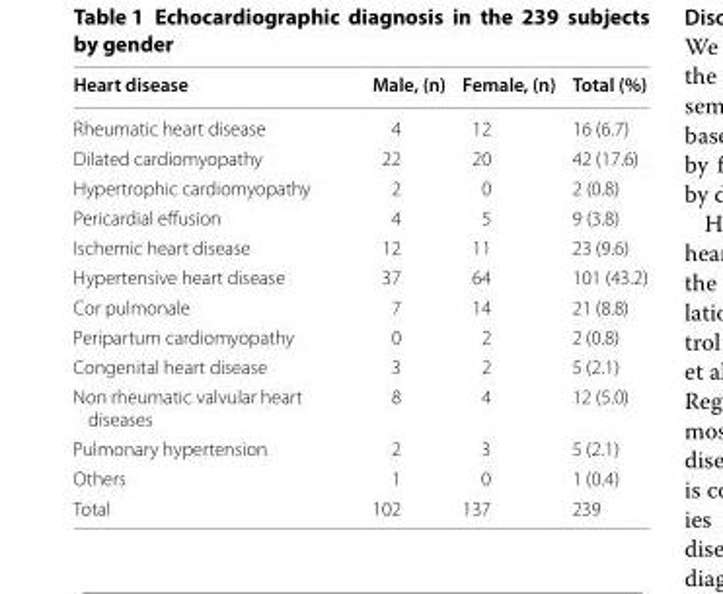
<table><thead><tr><td>Heart disease</td><td>Male, (n)</td><td>Female, (n)</td><td>Total (%)</td></tr></thead><tbody><tr><td>Rheumatic heart disease</td><td>4</td><td>12</td><td>16 (6.7)</td></tr><tr><td>Dilated cardiomyopathy</td><td>22</td><td>20</td><td>42 (17.6)</td></tr><tr><td>Hypertrophic cardiomyopathy</td><td>2</td><td>0</td><td>2 (0.8)</td></tr><tr><td>Pericardial effusion</td><td>4</td><td>5</td><td>9 (3.8)</td></tr><tr><td>Ischemic heart disease</td><td>12</td><td>11</td><td>23 (9.6)</td></tr><tr><td>Hypertensive heart disease</td><td>37</td><td>64</td><td>101 (43.2)</td></tr><tr><td>Cor pulmonale</td><td>7</td><td>14</td><td>21 (8.8)</td></tr><tr><td>Peripartum cardiomyopathy</td><td>0</td><td>2</td><td>2 (0.8)</td></tr><tr><td>Congenital heart disease</td><td>3</td><td>2</td><td>5 (2.1)</td></tr><tr><td>Non rheumatic valvular heart diseases</td><td>8</td><td>4</td><td>12 (5.0)</td></tr><tr><td>Pulmonary hypertension</td><td>2</td><td>3</td><td>5 (2.1)</td></tr><tr><td>Others</td><td>1</td><td>0</td><td>1 (0.4)</td></tr><tr><td>Total</td><td>102</td><td>137</td><td>239</td></tr></tbody></table>